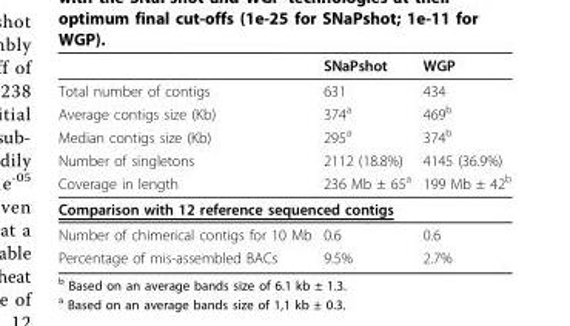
<table><thead><tr><td></td><td>SNaPshot</td><td>WGP</td></tr></thead><tbody><tr><td>Total number of contigs</td><td>631</td><td>434</td></tr><tr><td>Average contigs size (Kb)</td><td>374<sup>a</sup></td><td>469<sup>b</sup></td></tr><tr><td>Median contigs size (Kb)</td><td>295<sup>a</sup></td><td>374<sup>b</sup></td></tr><tr><td>Number of singletons</td><td>2112 (18.8%)</td><td>4145 (36.9%)</td></tr><tr><td>Coverage in length</td><td>236 Mb ± 65<sup>a</sup></td><td>199 Mb ± 42<sup>b</sup></td></tr><tr><td colspan="3">Comparison with 12 reference sequenced contigs</td></tr><tr><td>Number of chimerical contigs for 10 Mb</td><td>0.6</td><td>0.6</td></tr><tr><td>Percentage of mis-assembled BACs</td><td>9.5%</td><td>2.7%</td></tr></tbody></table>